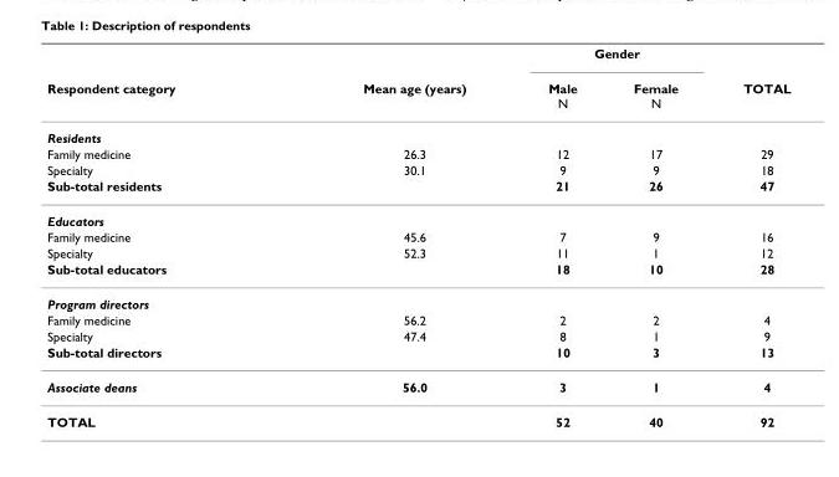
<table><thead><tr><td rowspan="2">Respondent category</td><td rowspan="2">Mean age (years)</td><td colspan="2">Gender</td><td rowspan="2">TOTAL</td></tr><tr><td>Male N</td><td>Female N</td></tr></thead><tbody><tr><td colspan="5">Residents</td></tr><tr><td>Family medicine</td><td>26.3</td><td>12</td><td>17</td><td>29</td></tr><tr><td>Specialty</td><td>30.1</td><td>9</td><td>9</td><td>18</td></tr><tr><td>Sub-total residents</td><td></td><td>21</td><td>26</td><td>47</td></tr><tr><td colspan="5">Educators</td></tr><tr><td>Family medicine</td><td>45.6</td><td>7</td><td>9</td><td>16</td></tr><tr><td>Specialty</td><td>52.3</td><td>11</td><td>1</td><td>12</td></tr><tr><td>Sub-total educators</td><td></td><td>18</td><td>10</td><td>28</td></tr><tr><td colspan="5">Program directors</td></tr><tr><td>Family medicine</td><td>56.2</td><td>2</td><td>2</td><td>4</td></tr><tr><td>Specialty</td><td>47.4</td><td>8</td><td>1</td><td>9</td></tr><tr><td>Sub-total directors</td><td></td><td>10</td><td>3</td><td>13</td></tr><tr><td>Associate deans</td><td>56.0</td><td>3</td><td>1</td><td>4</td></tr><tr><td>TOTAL</td><td></td><td>52</td><td>40</td><td>92</td></tr></tbody></table>